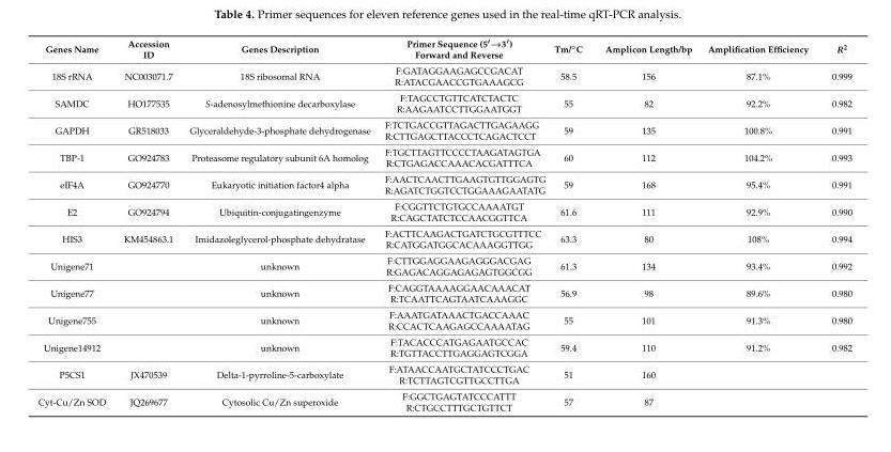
<table><thead><tr><td>Genes Name</td><td>Accession ID</td><td>Genes Description</td><td>Primer Sequence (5′→3′) Forward and Reverse</td><td>Tm/◦C</td><td>Amplicon Length/bp</td><td>Amplification Efficiency</td><td>R<sup>2</sup></td></tr></thead><tbody><tr><td>18S rRNA</td><td>NC003071.7</td><td>18S ribosomal RNA</td><td>F:GATAGGAAGAGCCGACAT R:ATACGAACCGTGAAAGCG</td><td>58.5</td><td>156</td><td>87.1%</td><td>0.999</td></tr><tr><td>SAMDC</td><td>HO177535</td><td>S-adenosylmethionine decarboxylase</td><td>F:TAGCCTGTTCATCTACTC R:AAGAATCCTTGGAATGGT</td><td>55</td><td>82</td><td>92.2%</td><td>0.982</td></tr><tr><td>GAPDH</td><td>GR518033</td><td>Glyceraldehyde-3-phosphate dehydrogenase</td><td>F:TCTGACCGTTAGACTTGAGAAGG R:CTTGAGCTTACCCTCAGACTCCT</td><td>59</td><td>135</td><td>100.8%</td><td>0.991</td></tr><tr><td>TBP-1</td><td>GO924783</td><td>Proteasome regulatory subunit 6A homolog</td><td>F:TGCTTAGTTCCCCTAAGATAGTGA R:CTGAGACCAAACACGATTTCA</td><td>60</td><td>112</td><td>104.2%</td><td>0.993</td></tr><tr><td>eIF4A</td><td>GO924770</td><td>Eukaryotic initiation factor4 alpha</td><td>F:AACTCAACTTGAAGTGTTGGAGTG R:AGATCTGGTCCTGGAAAGAATATG</td><td>59</td><td>168</td><td>95.4%</td><td>0.991</td></tr><tr><td>E2</td><td>GO924794</td><td>Ubiquitin-conjugatingenzyme</td><td>F:CGGTTCTGTGCCAAAATGT R:CAGCTATCTCCAACGGTTCA</td><td>61.6</td><td>111</td><td>92.9%</td><td>0.990</td></tr><tr><td>HIS3</td><td>KM454863.1</td><td>Imidazoleglycerol-phosphate dehydratase</td><td>F:ACTTCAAGACTGATCTGCGTTTCC R:CATGGATGGCACAAAGGTTGG</td><td>63.3</td><td>80</td><td>108%</td><td>0.994</td></tr><tr><td>Unigene71</td><td></td><td>unknown</td><td>F:CTTGGAGGAAGAGGGACGAG R:GAGACAGGAGAGAGTGGCGG</td><td>61.3</td><td>134</td><td>93.4%</td><td>0.992</td></tr><tr><td>Unigene77</td><td></td><td>unknown</td><td>F:CAGGTAAAAGGAACAAACAT R:TCAATTCAGTAATCAAAGGC</td><td>56.9</td><td>98</td><td>89.6%</td><td>0.980</td></tr><tr><td>Unigene755</td><td></td><td>unknown</td><td>F:AAATGATAAACTGACCAAAC R:CCACTCAAGAGCCAAAATAG</td><td>55</td><td>101</td><td>91.3%</td><td>0.980</td></tr><tr><td>Unigene14912</td><td></td><td>unknown</td><td>F:TACACCCATGAGAATGCCAC R:TGTTACCTTGAGGAGTCGGA</td><td>59.4</td><td>110</td><td>91.2%</td><td>0.982</td></tr><tr><td>P5CS1</td><td>JX470539</td><td>Delta-1-pyrroline-5-carboxylate</td><td>F:ATAACCAATGCTATCCCTGAC R:TCTTAGTCGTTGCCTTGA</td><td>51</td><td>160</td><td></td><td></td></tr><tr><td>Cyt-Cu/Zn SOD</td><td>JQ269677</td><td>Cytosolic Cu/Zn superoxide</td><td>F:GGCTGAGTATCCCATTT R:CTGCCTTTGCTGTTCT</td><td>57</td><td>87</td><td></td><td></td></tr></tbody></table>